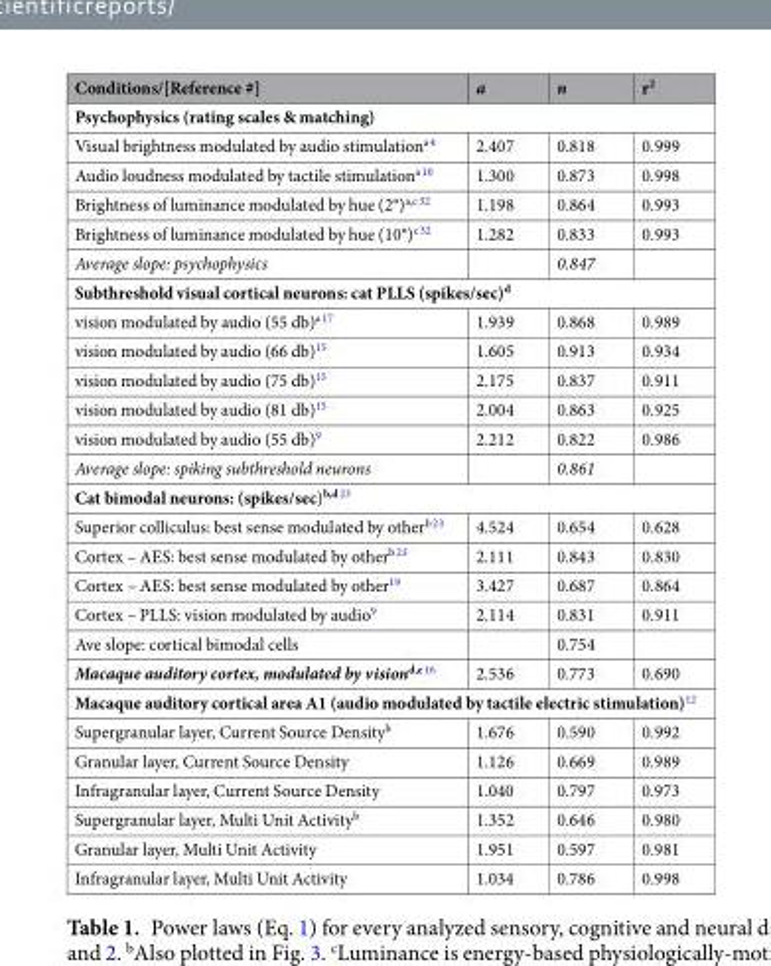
<table><thead><tr><td>Conditions/[Reference #]</td><td>a</td><td>n</td><td>r<sup>2</sup></td></tr></thead><tbody><tr><td colspan="4">Psychophysics (rating scales &amp; matching)</td></tr><tr><td>Visual brightness modulated by audio stimulation<sup>a 4</sup></td><td>2.407</td><td>0.818</td><td>0.999</td></tr><tr><td>Audio loudness modulated by tactile stimulation<sup>a 10</sup></td><td>1.300</td><td>0.873</td><td>0.998</td></tr><tr><td>Brightness of luminance modulated by hue (2°)<sup>a,c 32</sup></td><td>1.198</td><td>0.864</td><td>0.993</td></tr><tr><td>Brightness of luminance modulated by hue (10°)<sup>c 32</sup></td><td>1.282</td><td>0.833</td><td>0.993</td></tr><tr><td>Average slope: psychophysics</td><td></td><td>0.847</td><td></td></tr><tr><td colspan="4">Subthreshold visual cortical neurons: cat PLLS (spikes/sec)<sup>d</sup></td></tr><tr><td>vision modulated by audio (55 db)<sup>a 17</sup></td><td>1.939</td><td>0.868</td><td>0.989</td></tr><tr><td>vision modulated by audio (66 db)<sup>15</sup></td><td>1.605</td><td>0.913</td><td>0.934</td></tr><tr><td>vision modulated by audio (75 db)<sup>15</sup></td><td>2.175</td><td>0.837</td><td>0.911</td></tr><tr><td>vision modulated by audio (81 db)<sup>15</sup></td><td>2.004</td><td>0.863</td><td>0.925</td></tr><tr><td>vision modulated by audio (55 db)<sup>9</sup></td><td>2.212</td><td>0.822</td><td>0.986</td></tr><tr><td>Average slope: spiking subthreshold neurons</td><td></td><td>0.861</td><td></td></tr><tr><td colspan="4">Cat bimodal neurons: (spikes/sec)<sup>b,d 23</sup></td></tr><tr><td>Superior colliculus: best sense modulated by other<sup>b 23</sup></td><td>4.524</td><td>0.654</td><td>0.628</td></tr><tr><td>Cortex – AES: best sense modulated by other<sup>b 23</sup></td><td>2.111</td><td>0.843</td><td>0.830</td></tr><tr><td>Cortex – AES: best sense modulated by other<sup>19</sup></td><td>3.427</td><td>0.687</td><td>0.864</td></tr><tr><td>Cortex – PLLS: vision modulated by audio<sup>9</sup></td><td>2.114</td><td>0.831</td><td>0.911</td></tr><tr><td>Ave slope: cortical bimodal cells</td><td></td><td>0.754</td><td></td></tr><tr><td>Macaque auditory cortex, modulated by vision<sup>d,e 16</sup></td><td>2.536</td><td>0.773</td><td>0.690</td></tr><tr><td colspan="4">Macaque auditory cortical area A1 (audio modulated by tactile electric stimulation)<sup>12</sup></td></tr><tr><td>Supergranular layer, Current Source Density<sup>b</sup></td><td>1.676</td><td>0.590</td><td>0.992</td></tr><tr><td>Granular layer, Current Source Density</td><td>1.126</td><td>0.669</td><td>0.989</td></tr><tr><td>Infragranular layer, Current Source Density</td><td>1.040</td><td>0.797</td><td>0.973</td></tr><tr><td>Supergranular layer, Multi Unit Activity<sup>b</sup></td><td>1.352</td><td>0.646</td><td>0.980</td></tr><tr><td>Granular layer, Multi Unit Activity</td><td>1.951</td><td>0.597</td><td>0.981</td></tr><tr><td>Infragranular layer, Multi Unit Activity</td><td>1.034</td><td>0.786</td><td>0.998</td></tr></tbody></table>